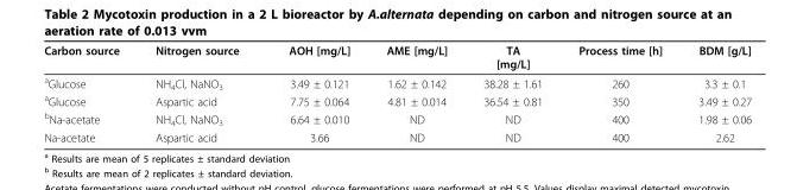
<table><thead><tr><td>Carbon source</td><td>Nitrogen source</td><td>AOH [mg/L]</td><td>AME [mg/L]</td><td>TA [mg/L]</td><td>Process time [h]</td><td>BDM [g/L]</td></tr></thead><tbody><tr><td><sup>a</sup>Glucose</td><td>NH<sub>4</sub>Cl, NaNO<sub>3</sub></td><td>3.49 ± 0.121</td><td>1.62 ± 0.142</td><td>38.28 ± 1.61</td><td>260</td><td>3.3 ± 0.1</td></tr><tr><td><sup>a</sup>Glucose</td><td>Aspartic acid</td><td>7.75 ± 0.064</td><td>4.81 ± 0.014</td><td>36.54 ± 0.81</td><td>350</td><td>3.49 ± 0.27</td></tr><tr><td><sup>b</sup>Na-acetate</td><td>NH<sub>4</sub>Cl, NaNO<sub>3</sub></td><td>6.64 ± 0.010</td><td>ND</td><td>ND</td><td>400</td><td>1.98 ± 0.06</td></tr><tr><td>Na-acetate</td><td>Aspartic acid</td><td>3.66</td><td>ND</td><td>ND</td><td>400</td><td>2.62</td></tr></tbody></table>